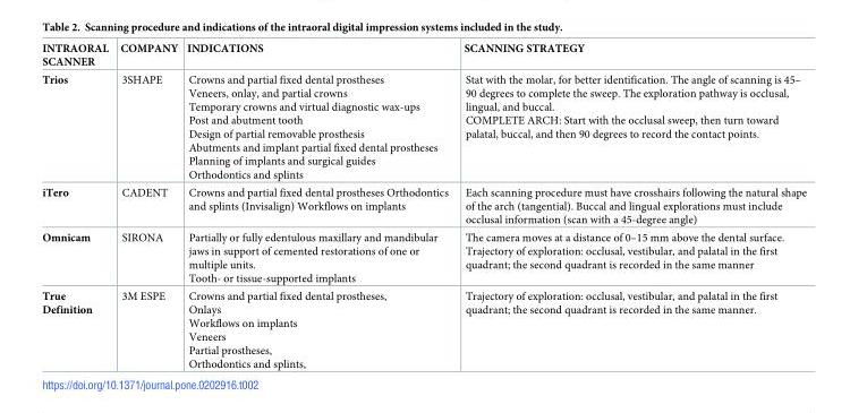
<table><thead><tr><td>INTRAORAL SCANNER</td><td>COMPANY</td><td>INDICATIONS</td><td>SCANNING STRATEGY</td></tr></thead><tbody><tr><td>Trios</td><td>3SHAPE</td><td>Crowns and partial fixed dental prostheses Veneers, onlay, and partial crowns Temporary crowns and virtual diagnostic wax-ups Post and abutment tooth Design of partial removable prosthesis Abutments and implant partial fixed dental prostheses Planning of implants and surgical guides Orthodontics and splints</td><td>Stat with the molar, for better identification. The angle of scanning is 45– 90 degrees to complete the sweep. The exploration pathway is occlusal, lingual, and buccal. COMPLETE ARCH: Start with the occlusal sweep, then turn toward palatal, buccal, and then 90 degrees to record the contact points.</td></tr><tr><td>iTero</td><td>CADENT</td><td>Crowns and partial fixed dental prostheses Orthodontics and splints (Invisalign) Workflows on implants</td><td>Each scanning procedure must have crosshairs following the natural shape of the arch (tangential). Buccal and lingual explorations must include occlusal information (scan with a 45-degree angle)</td></tr><tr><td>Omnicam</td><td>SIRONA</td><td>Partially or fully edentulous maxillary and mandibular jaws in support of cemented restorations of one or multiple units. Tooth- or tissue-supported implants</td><td>The camera moves at a distance of 0–15 mm above the dental surface. Trajectory of exploration: occlusal, vestibular, and palatal in the first quadrant; the second quadrant is recorded in the same manner</td></tr><tr><td>True Definition</td><td>3M ESPE</td><td>Crowns and partial fixed dental prostheses, Onlays Workflows on implants Veneers Partial prostheses, Orthodontics and splints,</td><td>Trajectory of exploration: occlusal, vestibular, and palatal in the first quadrant; the second quadrant is recorded in the same manner.</td></tr></tbody></table>